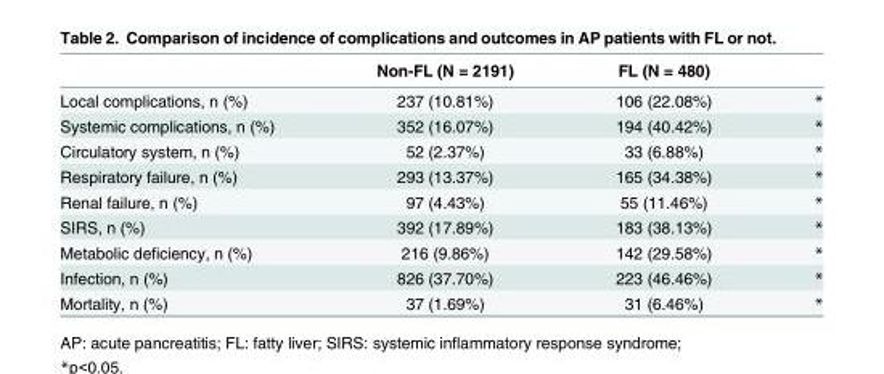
<table><thead><tr><td></td><td>Non-FL (N = 2191)</td><td>FL (N = 480)</td><td></td></tr></thead><tbody><tr><td>Local complications, n (%)</td><td>237 (10.81%)</td><td>106 (22.08%)</td><td>*</td></tr><tr><td>Systemic complications, n (%)</td><td>352 (16.07%)</td><td>194 (40.42%)</td><td>*</td></tr><tr><td>Circulatory system, n (%)</td><td>52 (2.37%)</td><td>33 (6.88%)</td><td>*</td></tr><tr><td>Respiratory failure, n (%)</td><td>293 (13.37%)</td><td>165 (34.38%)</td><td>*</td></tr><tr><td>Renal failure, n (%)</td><td>97 (4.43%)</td><td>55 (11.46%)</td><td>*</td></tr><tr><td>SIRS, n (%)</td><td>392 (17.89%)</td><td>183 (38.13%)</td><td>*</td></tr><tr><td>Metabolic deficiency, n (%)</td><td>216 (9.86%)</td><td>142 (29.58%)</td><td>*</td></tr><tr><td>Infection, n (%)</td><td>826 (37.70%)</td><td>223 (46.46%)</td><td>*</td></tr><tr><td>Mortality, n (%)</td><td>37 (1.69%)</td><td>31 (6.46%)</td><td>*</td></tr></tbody></table>